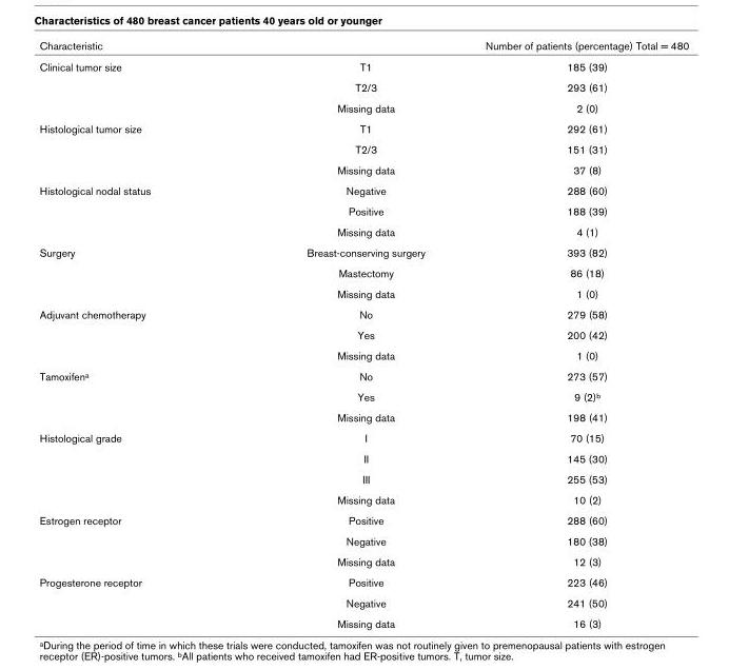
<table><thead><tr><td>Characteristic</td><td></td><td>Number of patients (percentage) Total = 480</td></tr></thead><tbody><tr><td rowspan="3">Clinical tumor size</td><td>T1</td><td>185 (39)</td></tr><tr><td>T2/3</td><td>293 (61)</td></tr><tr><td>Missing data</td><td>2 (0)</td></tr><tr><td rowspan="3">Histological tumor size</td><td>T1</td><td>292 (61)</td></tr><tr><td>T2/3</td><td>151 (31)</td></tr><tr><td>Missing data</td><td>37 (8)</td></tr><tr><td rowspan="3">Histological nodal status</td><td>Negative</td><td>288 (60)</td></tr><tr><td>Positive</td><td>188 (39)</td></tr><tr><td>Missing data</td><td>4 (1)</td></tr><tr><td rowspan="3">Surgery</td><td>Breast-conserving surgery</td><td>393 (82)</td></tr><tr><td>Mastectomy</td><td>86 (18)</td></tr><tr><td>Missing data</td><td>1 (0)</td></tr><tr><td rowspan="3">Adjuvant chemotherapy</td><td>No</td><td>279 (58)</td></tr><tr><td>Yes</td><td>200 (42)</td></tr><tr><td>Missing data</td><td>1 (0)</td></tr><tr><td rowspan="3">Tamoxifen<sup>a</sup></td><td>No</td><td>273 (57)</td></tr><tr><td>Yes</td><td>9 (2)<sup>b</sup></td></tr><tr><td>Missing data</td><td>198 (41)</td></tr><tr><td rowspan="4">Histological grade</td><td>I</td><td>70 (15)</td></tr><tr><td>II</td><td>145 (30)</td></tr><tr><td>III</td><td>255 (53)</td></tr><tr><td>Missing data</td><td>10 (2)</td></tr><tr><td rowspan="3">Estrogen receptor</td><td>Positive</td><td>288 (60)</td></tr><tr><td>Negative</td><td>180 (38)</td></tr><tr><td>Missing data</td><td>12 (3)</td></tr><tr><td rowspan="3">Progesterone receptor</td><td>Positive</td><td>223 (46)</td></tr><tr><td>Negative</td><td>241 (50)</td></tr><tr><td>Missing data</td><td>16 (3)</td></tr></tbody></table>